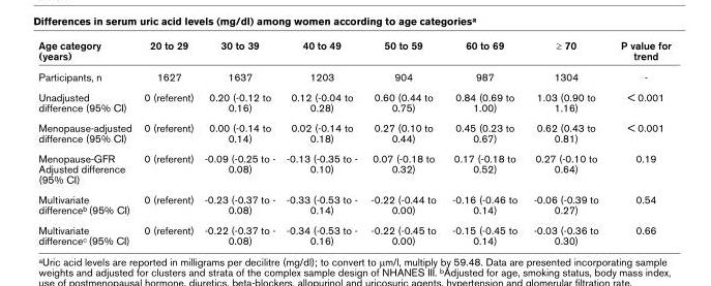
<table><thead><tr><td>Age category (years)</td><td>20 to 29</td><td>30 to 39</td><td>40 to 49</td><td>50 to 59</td><td>60 to 69</td><td>≥ 70</td><td>P value for trend</td></tr></thead><tbody><tr><td>Participants, n</td><td>1627</td><td>1637</td><td>1203</td><td>904</td><td>987</td><td>1304</td><td>-</td></tr><tr><td>Unadjusted difference (95% CI)</td><td>0 (referent)</td><td>0.20 (-0.12 to 0.16)</td><td>0.12 (-0.04 to 0.28)</td><td>0.60 (0.44 to 0.75)</td><td>0.84 (0.69 to 1.00)</td><td>1.03 (0.90 to 1.16)</td><td>&lt; 0.001</td></tr><tr><td>Menopause-adjusted difference (95% CI)</td><td>0 (referent)</td><td>0.00 (-0.14 to 0.14)</td><td>0.02 (-0.14 to 0.18)</td><td>0.27 (0.10 to 0.44)</td><td>0.45 (0.23 to 0.67)</td><td>0.62 (0.43 to 0.81)</td><td>&lt; 0.001</td></tr><tr><td>Menopause-GFR Adjusted difference (95% CI)</td><td>0 (referent)</td><td>-0.09 (-0.25 to - 0.08)</td><td>-0.13 (-0.35 to - 0.10)</td><td>0.07 (-0.18 to 0.32)</td><td>0.17 (-0.18 to 0.52)</td><td>0.27 (-0.10 to 0.64)</td><td>0.19</td></tr><tr><td>Multivariate difference<sup>b</sup> (95% CI)</td><td>0 (referent)</td><td>-0.23 (-0.37 to - 0.08)</td><td>-0.33 (-0.53 to - 0.14)</td><td>-0.22 (-0.44 to 0.00)</td><td>-0.16 (-0.46 to 0.14)</td><td>-0.06 (-0.39 to 0.27)</td><td>0.54</td></tr><tr><td>Multivariate difference<sup>c</sup> (95% CI)</td><td>0 (referent)</td><td>-0.22 (-0.37 to - 0.08)</td><td>-0.34 (-0.53 to - 0.16)</td><td>-0.22 (-0.45 to 0.00)</td><td>-0.15 (-0.45 to 0.14)</td><td>-0.03 (-0.36 to 0.30)</td><td>0.66</td></tr></tbody></table>